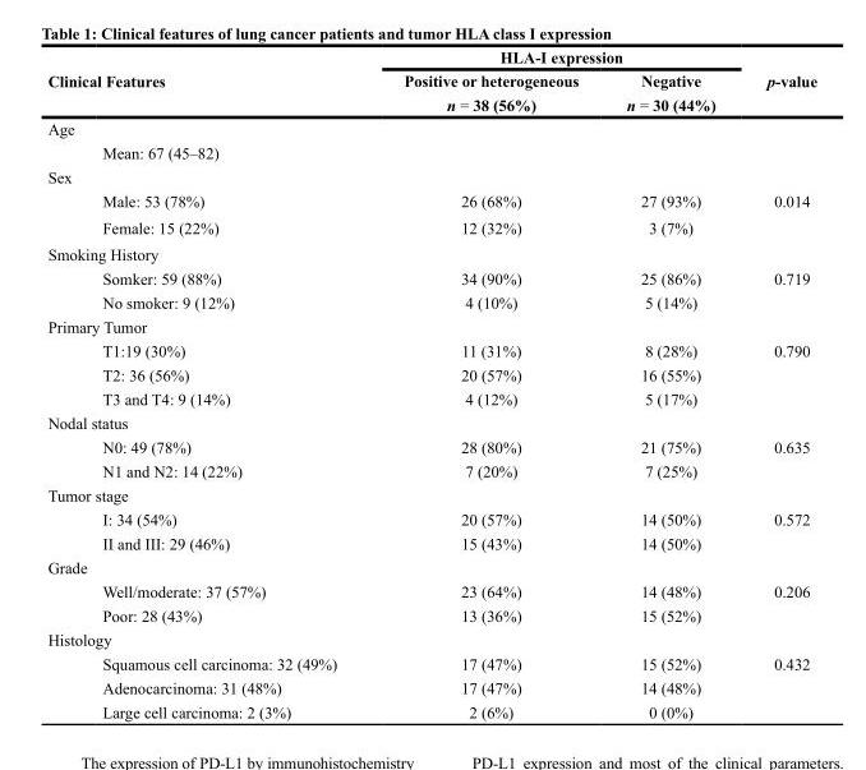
<table><thead><tr><td rowspan="2">Clinical Features</td><td colspan="2">HLA-I expression</td><td rowspan="2">p-value</td></tr><tr><td>Positive or heterogeneous n = 38 (56%)</td><td>Negative n = 30 (44%)</td></tr></thead><tbody><tr><td colspan="4">Age</td></tr><tr><td colspan="4">Mean: 67 (45–82)</td></tr><tr><td colspan="4">Sex</td></tr><tr><td>Male: 53 (78%)</td><td>26 (68%)</td><td>27 (93%)</td><td>0.014</td></tr><tr><td>Female: 15 (22%)</td><td>12 (32%)</td><td>3 (7%)</td><td></td></tr><tr><td colspan="4">Smoking History</td></tr><tr><td>Somker: 59 (88%)</td><td>34 (90%)</td><td>25 (86%)</td><td>0.719</td></tr><tr><td>No smoker: 9 (12%)</td><td>4 (10%)</td><td>5 (14%)</td><td></td></tr><tr><td colspan="4">Primary Tumor</td></tr><tr><td>T1:19 (30%)</td><td>11 (31%)</td><td>8 (28%)</td><td>0.790</td></tr><tr><td>T2: 36 (56%)</td><td>20 (57%)</td><td>16 (55%)</td><td></td></tr><tr><td>T3 and T4: 9 (14%)</td><td>4 (12%)</td><td>5 (17%)</td><td></td></tr><tr><td colspan="4">Nodal status</td></tr><tr><td>N0: 49 (78%)</td><td>28 (80%)</td><td>21 (75%)</td><td>0.635</td></tr><tr><td>N1 and N2: 14 (22%)</td><td>7 (20%)</td><td>7 (25%)</td><td></td></tr><tr><td colspan="4">Tumor stage</td></tr><tr><td>I: 34 (54%)</td><td>20 (57%)</td><td>14 (50%)</td><td>0.572</td></tr><tr><td>II and III: 29 (46%)</td><td>15 (43%)</td><td>14 (50%)</td><td></td></tr><tr><td colspan="4">Grade</td></tr><tr><td>Well/moderate: 37 (57%)</td><td>23 (64%)</td><td>14 (48%)</td><td>0.206</td></tr><tr><td>Poor: 28 (43%)</td><td>13 (36%)</td><td>15 (52%)</td><td></td></tr><tr><td colspan="4">Histology</td></tr><tr><td>Squamous cell carcinoma: 32 (49%)</td><td>17 (47%)</td><td>15 (52%)</td><td>0.432</td></tr><tr><td>Adenocarcinoma: 31 (48%)</td><td>17 (47%)</td><td>14 (48%)</td><td></td></tr><tr><td>Large cell carcinoma: 2 (3%)</td><td>2 (6%)</td><td>0 (0%)</td><td></td></tr></tbody></table>